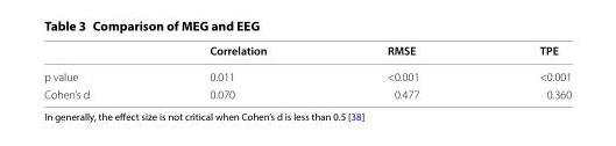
<table><thead><tr><td></td><td>Correlation</td><td>RMSE</td><td>TPE</td></tr></thead><tbody><tr><td>p value</td><td>0.011</td><td>&lt;0.001</td><td>&lt;0.001</td></tr><tr><td>Cohen’s d</td><td>0.070</td><td>0.477</td><td>0.360</td></tr></tbody></table>